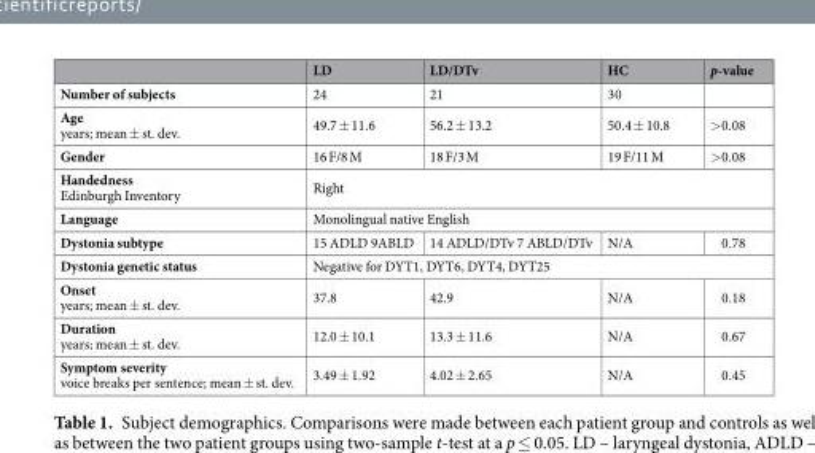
<table><thead><tr><td></td><td>LD</td><td>LD/DTv</td><td>HC</td><td>p-value</td></tr></thead><tbody><tr><td>Number of subjects</td><td>24</td><td>21</td><td>30</td><td></td></tr><tr><td>Age years; mean ± st. dev.</td><td>49.7 ± 11.6</td><td>56.2 ± 13.2</td><td>50.4 ± 10.8</td><td>&gt;0.08</td></tr><tr><td>Gender</td><td>16 F/8 M</td><td>18 F/3 M</td><td>19 F/11 M</td><td>&gt;0.08</td></tr><tr><td>Handedness Edinburgh Inventory</td><td colspan="4">Right</td></tr><tr><td>Language</td><td colspan="4">Monolingual native English</td></tr><tr><td>Dystonia subtype</td><td>15 ADLD 9ABLD</td><td>14 ADLD/DTv 7 ABLD/DTv</td><td>N/A</td><td>0.78</td></tr><tr><td>Dystonia genetic status</td><td colspan="4">Negative for DYT1, DYT6, DYT4, DYT25</td></tr><tr><td>Onset years; mean ± st. dev.</td><td>37.8</td><td>42.9</td><td>N/A</td><td>0.18</td></tr><tr><td>Duration years; mean ± st. dev.</td><td>12.0 ± 10.1</td><td>13.3 ± 11.6</td><td>N/A</td><td>0.67</td></tr><tr><td>Symptom severity voice breaks per sentence; mean ± st. dev.</td><td>3.49 ± 1.92</td><td>4.02 ± 2.65</td><td>N/A</td><td>0.45</td></tr></tbody></table>